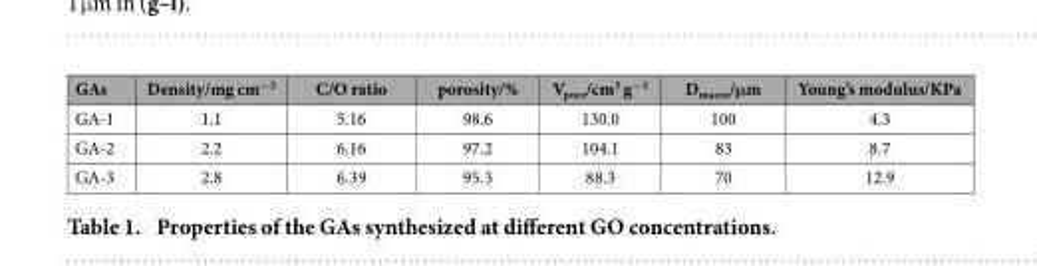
<table><thead><tr><td>GAs</td><td>Density/mg cm<sup>−3</sup></td><td>C/O ratio</td><td>porosity/%</td><td>V<sub>pore</sub>/cm<sup>3</sup> g<sup>−1</sup></td><td>D<sub>macro</sub>/μm</td><td>Young’s modulus/KPa</td></tr></thead><tbody><tr><td>GA-1</td><td>1.1</td><td>5.16</td><td>98.6</td><td>130.0</td><td>100</td><td>4.3</td></tr><tr><td>GA-2</td><td>2.2</td><td>6.16</td><td>97.2</td><td>104.1</td><td>83</td><td>8.7</td></tr><tr><td>GA-3</td><td>2.8</td><td>6.39</td><td>95.3</td><td>88.3</td><td>70</td><td>12.9</td></tr></tbody></table>